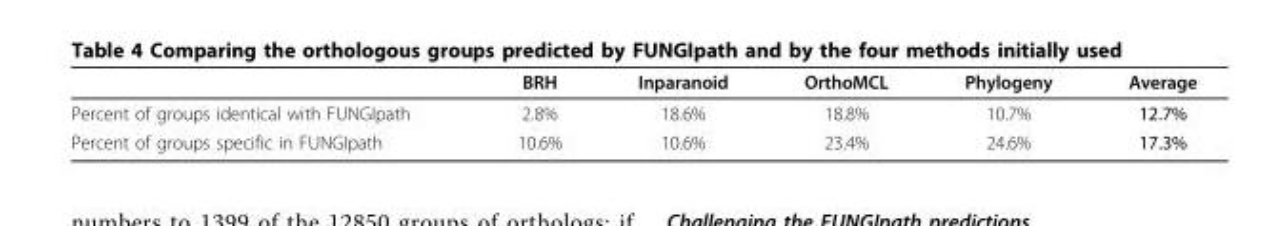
<table><thead><tr><td></td><td>BRH</td><td>Inparanoid</td><td>OrthoMCL</td><td>Phylogeny</td><td>Average</td></tr></thead><tbody><tr><td>Percent of groups identical with FUNGIpath</td><td>2.8%</td><td>18.6%</td><td>18.8%</td><td>10.7%</td><td>12.7%</td></tr><tr><td>Percent of groups specific in FUNGIpath</td><td>10.6%</td><td>10.6%</td><td>23.4%</td><td>24.6%</td><td>17.3%</td></tr></tbody></table>